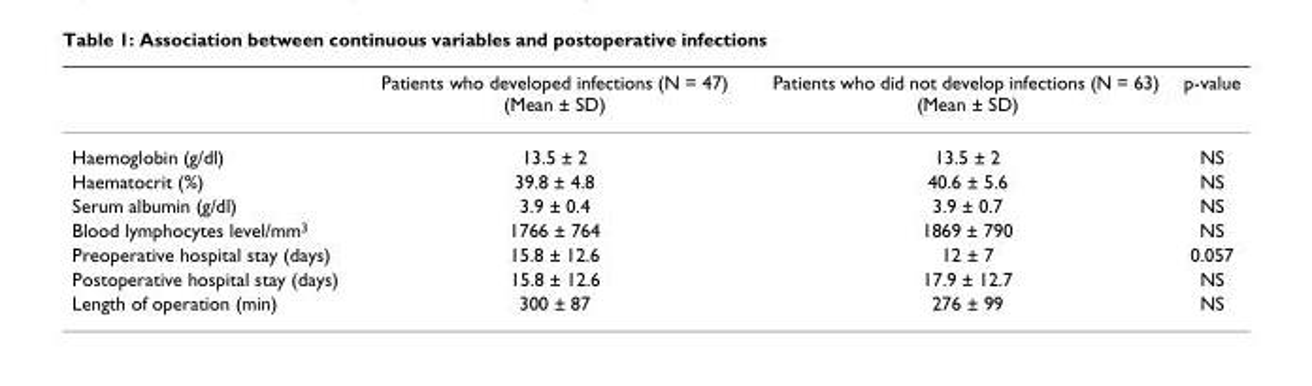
<table><thead><tr><td></td><td>Patients who developed infections (N = 47) (Mean ± SD)</td><td>Patients who did not develop infections (N = 63) (Mean ± SD)</td><td>p-value</td></tr></thead><tbody><tr><td>Haemoglobin (g/dl)</td><td>13.5 ± 2</td><td>13.5 ± 2</td><td>NS</td></tr><tr><td>Haematocrit (%)</td><td>39.8 ± 4.8</td><td>40.6 ± 5.6</td><td>NS</td></tr><tr><td>Serum albumin (g/dl)</td><td>3.9 ± 0.4</td><td>3.9 ± 0.7</td><td>NS</td></tr><tr><td>Blood lymphocytes level/mm<sup>3</sup></td><td>1766 ± 764</td><td>1869 ± 790</td><td>NS</td></tr><tr><td>Preoperative hospital stay (days)</td><td>15.8 ± 12.6</td><td>12 ± 7</td><td>0.057</td></tr><tr><td>Postoperative hospital stay (days)</td><td>15.8 ± 12.6</td><td>17.9 ± 12.7</td><td>NS</td></tr><tr><td>Length of operation (min)</td><td>300 ± 87</td><td>276 ± 99</td><td>NS</td></tr></tbody></table>